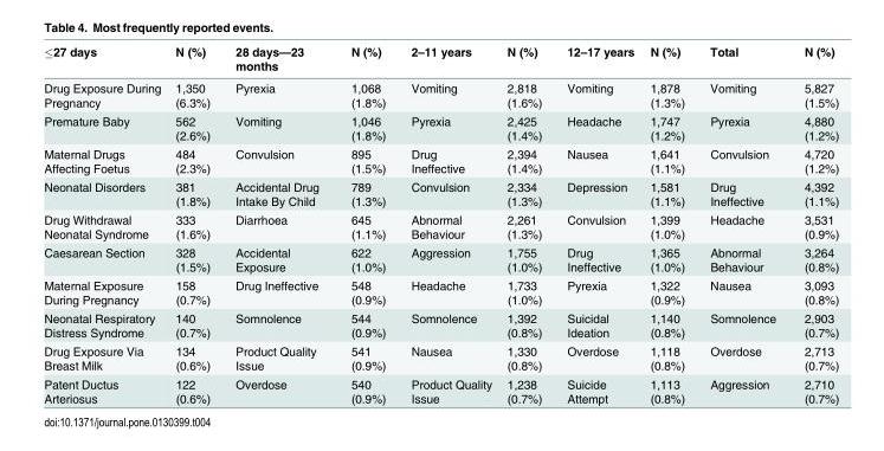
<table><thead><tr><td>≤27 days</td><td>N (%)</td><td>28 days—23 months</td><td>N (%)</td><td>2–11 years</td><td>N (%)</td><td>12–17 years</td><td>N (%)</td><td>Total</td><td>N (%)</td></tr></thead><tbody><tr><td>Drug Exposure During Pregnancy</td><td>1,350 (6.3%)</td><td>Pyrexia</td><td>1,068 (1.8%)</td><td>Vomiting</td><td>2,818 (1.6%)</td><td>Vomiting</td><td>1,878 (1.3%)</td><td>Vomiting</td><td>5,827 (1.5%)</td></tr><tr><td>Premature Baby</td><td>562 (2.6%)</td><td>Vomiting</td><td>1,046 (1.8%)</td><td>Pyrexia</td><td>2,425 (1.4%)</td><td>Headache</td><td>1,747 (1.2%)</td><td>Pyrexia</td><td>4,880 (1.2%)</td></tr><tr><td>Maternal Drugs Affecting Foetus</td><td>484 (2.3%)</td><td>Convulsion</td><td>895 (1.5%)</td><td>Drug Ineffective</td><td>2,394 (1.4%)</td><td>Nausea</td><td>1,641 (1.1%)</td><td>Convulsion</td><td>4,720 (1.2%)</td></tr><tr><td>Neonatal Disorders</td><td>381 (1.8%)</td><td>Accidental Drug Intake By Child</td><td>789 (1.3%)</td><td>Convulsion</td><td>2,334 (1.3%)</td><td>Depression</td><td>1,581 (1.1%)</td><td>Drug Ineffective</td><td>4,392 (1.1%)</td></tr><tr><td>Drug Withdrawal Neonatal Syndrome</td><td>333 (1.6%)</td><td>Diarrhoea</td><td>645 (1.1%)</td><td>Abnormal Behaviour</td><td>2,261 (1.3%)</td><td>Convulsion</td><td>1,399 (1.0%)</td><td>Headache</td><td>3,531 (0.9%)</td></tr><tr><td>Caesarean Section</td><td>328 (1.5%)</td><td>Accidental Exposure</td><td>622 (1.0%)</td><td>Aggression</td><td>1,755 (1.0%)</td><td>Drug Ineffective</td><td>1,365 (1.0%)</td><td>Abnormal Behaviour</td><td>3,264 (0.8%)</td></tr><tr><td>Maternal Exposure During Pregnancy</td><td>158 (0.7%)</td><td>Drug Ineffective</td><td>548 (0.9%)</td><td>Headache</td><td>1,733 (1.0%)</td><td>Pyrexia</td><td>1,322 (0.9%)</td><td>Nausea</td><td>3,093 (0.8%)</td></tr><tr><td>Neonatal Respiratory Distress Syndrome</td><td>140 (0.7%)</td><td>Somnolence</td><td>544 (0.9%)</td><td>Somnolence</td><td>1,392 (0.8%)</td><td>Suicidal Ideation</td><td>1,140 (0.8%)</td><td>Somnolence</td><td>2,903 (0.7%)</td></tr><tr><td>Drug Exposure Via Breast Milk</td><td>134 (0.6%)</td><td>Product Quality Issue</td><td>541 (0.9%)</td><td>Nausea</td><td>1,330 (0.8%)</td><td>Overdose</td><td>1,118 (0.8%)</td><td>Overdose</td><td>2,713 (0.7%)</td></tr><tr><td>Patent Ductus Arteriosus</td><td>122 (0.6%)</td><td>Overdose</td><td>540 (0.9%)</td><td>Product Quality Issue</td><td>1,238 (0.7%)</td><td>Suicide Attempt</td><td>1,113 (0.8%)</td><td>Aggression</td><td>2,710 (0.7%)</td></tr></tbody></table>